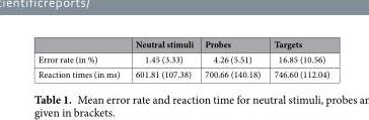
<table><thead><tr><td></td><td>Neutral stimuli</td><td>Probes</td><td>Targets</td></tr></thead><tbody><tr><td>Error rate (in %)</td><td>1.45 (3.33)</td><td>4.26 (5.51)</td><td>16.85 (10.56)</td></tr><tr><td>Reaction times (in ms)</td><td>601.81 (107.38)</td><td>700.66 (140.18)</td><td>746.60 (112.04)</td></tr></tbody></table>